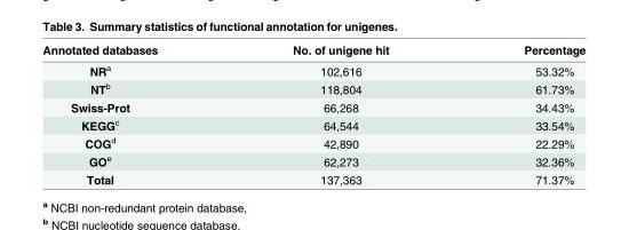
<table><thead><tr><td>Annotated databases</td><td>No. of unigene hit</td><td>Percentage</td></tr></thead><tbody><tr><td>NR<sup>a</sup></td><td>102,616</td><td>53.32%</td></tr><tr><td>NT<sup>b</sup></td><td>118,804</td><td>61.73%</td></tr><tr><td>Swiss-Prot</td><td>66,268</td><td>34.43%</td></tr><tr><td>KEGG<sup>c</sup></td><td>64,544</td><td>33.54%</td></tr><tr><td>COG<sup>d</sup></td><td>42,890</td><td>22.29%</td></tr><tr><td>GO<sup>e</sup></td><td>62,273</td><td>32.36%</td></tr><tr><td>Total</td><td>137,363</td><td>71.37%</td></tr></tbody></table>